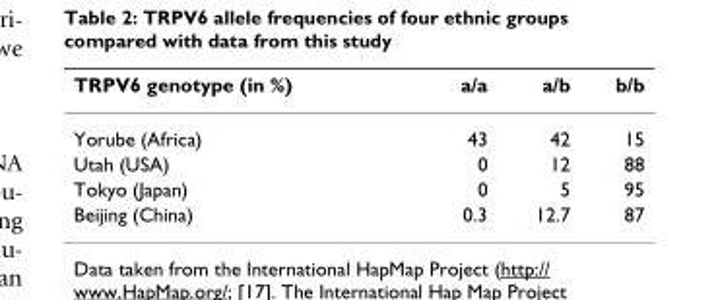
<table><thead><tr><td>TRPV6 genotype (in %)</td><td>a/a</td><td>a/b</td><td>b/b</td></tr></thead><tbody><tr><td>Yorube (Africa)</td><td>43</td><td>42</td><td>15</td></tr><tr><td>Utah (USA)</td><td>0</td><td>12</td><td>88</td></tr><tr><td>Tokyo (Japan)</td><td>0</td><td>5</td><td>95</td></tr><tr><td>Beijing (China)</td><td>0.3</td><td>12.7</td><td>87</td></tr></tbody></table>